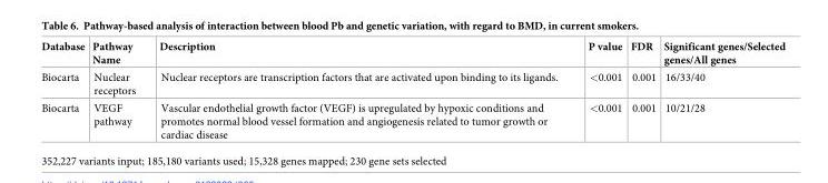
<table><thead><tr><td>Database</td><td>Pathway Name</td><td>Description</td><td>P value</td><td>FDR</td><td>Significant genes/Selected genes/All genes</td></tr></thead><tbody><tr><td>Biocarta</td><td>Nuclear receptors</td><td>Nuclear receptors are transcription factors that are activated upon binding to its ligands.</td><td>&lt;0.001</td><td>0.001</td><td>16/33/40</td></tr><tr><td>Biocarta</td><td>VEGF pathway</td><td>Vascular endothelial growth factor (VEGF) is upregulated by hypoxic conditions and promotes normal blood vessel formation and angiogenesis related to tumor growth or cardiac disease</td><td>&lt;0.001</td><td>0.001</td><td>10/21/28</td></tr></tbody></table>